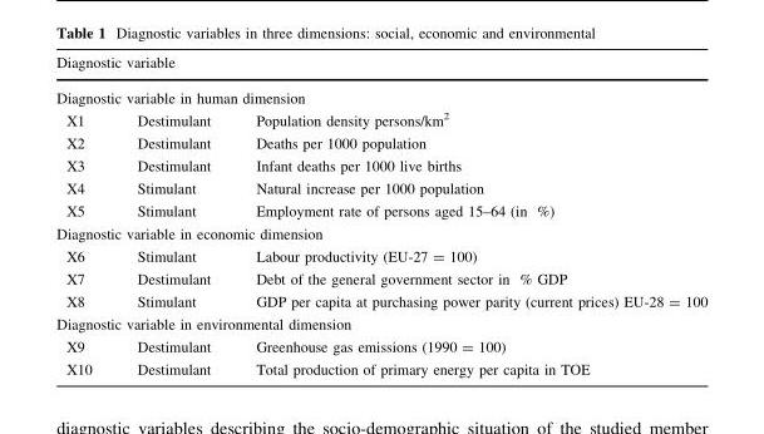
<table><thead><tr><td rowspan="2" colspan="3">Diagnostic variable Diagnostic variable in human dimension</td></tr><tr></tr><tr><td>X1</td><td>Destimulant</td><td>Population density persons/km<sup>2</sup></td></tr></thead><tbody><tr><td>X2</td><td>Destimulant</td><td>Deaths per 1000 population</td></tr><tr><td>X3</td><td>Destimulant</td><td>Infant deaths per 1000 live births</td></tr><tr><td>X4</td><td>Stimulant</td><td>Natural increase per 1000 population</td></tr><tr><td>X5</td><td>Stimulant</td><td>Employment rate of persons aged 15–64 (in %)</td></tr><tr><td colspan="3">Diagnostic variable in economic dimension</td></tr><tr><td>X6</td><td>Stimulant</td><td>Labour productivity (EU-27 = 100)</td></tr><tr><td>X7</td><td>Destimulant</td><td>Debt of the general government sector in % GDP</td></tr><tr><td>X8</td><td>Stimulant</td><td>GDP per capita at purchasing power parity (current prices) EU-28 = 100</td></tr><tr><td colspan="3">Diagnostic variable in environmental dimension</td></tr><tr><td>X9</td><td>Destimulant</td><td>Greenhouse gas emissions (1990 = 100)</td></tr><tr><td>X10</td><td>Destimulant</td><td>Total production of primary energy per capita in TOE</td></tr></tbody></table>